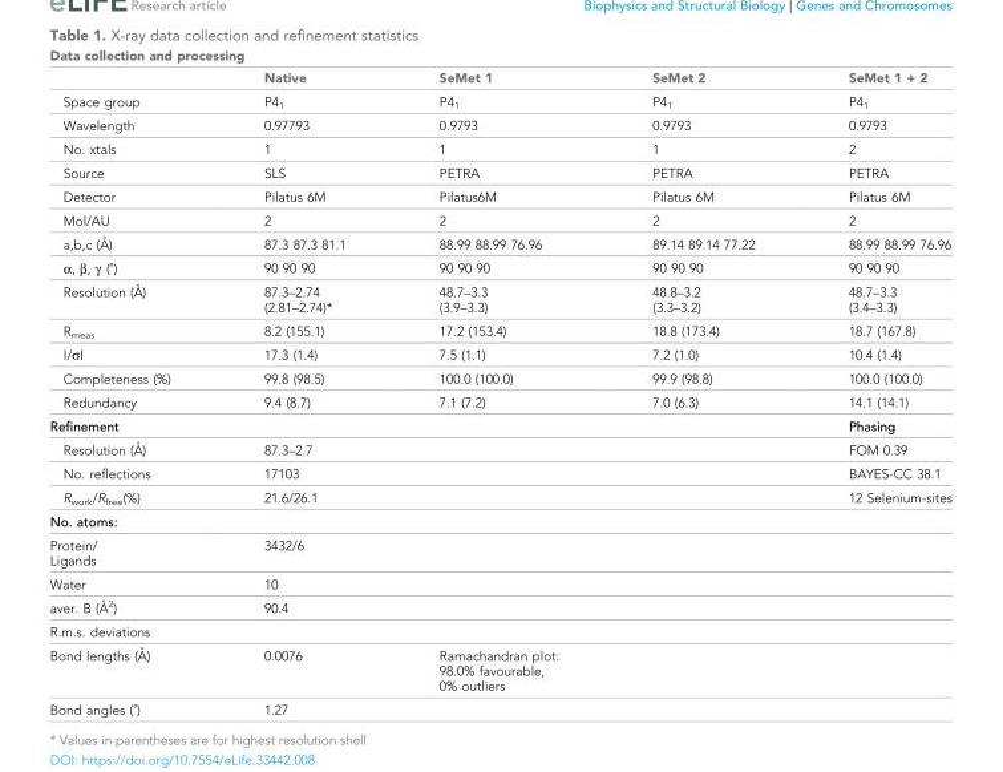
<table><thead><tr><td colspan="5">Data collection and processing</td></tr><tr><td></td><td>Native</td><td>SeMet 1</td><td>SeMet 2</td><td>SeMet 1 + 2</td></tr></thead><tbody><tr><td>Space group</td><td>P4<sub>1</sub></td><td>P4<sub>1</sub></td><td>P4<sub>1</sub></td><td>P4<sub>1</sub></td></tr><tr><td>Wavelength</td><td>0.97793</td><td>0.9793</td><td>0.9793</td><td>0.9793</td></tr><tr><td>No. xtals</td><td>1</td><td>1</td><td>1</td><td>2</td></tr><tr><td>Source</td><td>SLS</td><td>PETRA</td><td>PETRA</td><td>PETRA</td></tr><tr><td>Detector</td><td>Pilatus 6M</td><td>Pilatus6M</td><td>Pilatus 6M</td><td>Pilatus 6M</td></tr><tr><td>Mol/AU</td><td>2</td><td>2</td><td>2</td><td>2</td></tr><tr><td>a,b,c (A˚ )</td><td>87.3 87.3 81.1</td><td>88.99 88.99 76.96</td><td>89.14 89.14 77.22</td><td>88.99 88.99 76.96</td></tr><tr><td>α, β, γ (˚)</td><td>90 90 90</td><td>90 90 90</td><td>90 90 90</td><td>90 90 90</td></tr><tr><td>Resolution (A˚ )</td><td>87.3–2.74 (2.81–2.74)*</td><td>48.7–3.3 (3.9–3.3)</td><td>48.8–3.2 (3.3–3.2)</td><td>48.7–3.3 (3.4–3.3)</td></tr><tr><td>R<sub>meas</sub></td><td>8.2 (155.1)</td><td>17.2 (153.4)</td><td>18.8 (173.4)</td><td>18.7 (167.8)</td></tr><tr><td>I/σI</td><td>17.3 (1.4)</td><td>7.5 (1.1)</td><td>7.2 (1.0)</td><td>10.4 (1.4)</td></tr><tr><td>Completeness (%)</td><td>99.8 (98.5)</td><td>100.0 (100.0)</td><td>99.9 (98.8)</td><td>100.0 (100.0)</td></tr><tr><td>Redundancy</td><td>9.4 (8.7)</td><td>7.1 (7.2)</td><td>7.0 (6.3)</td><td>14.1 (14.1)</td></tr><tr><td colspan="4">Refinement</td><td>Phasing</td></tr><tr><td>Resolution (A˚ )</td><td>87.3–2.7</td><td></td><td></td><td>FOM 0.39</td></tr><tr><td>No. reflections</td><td>17103</td><td></td><td></td><td>BAYES-CC 38.1</td></tr><tr><td>R<sub>work</sub>/R<sub>free</sub>(%)</td><td>21.6/26.1</td><td></td><td></td><td>12 Selenium-sites</td></tr><tr><td colspan="5">No. atoms:</td></tr><tr><td>Protein/ Ligands</td><td>3432/6</td><td></td><td></td><td></td></tr><tr><td>Water</td><td>10</td><td></td><td></td><td></td></tr><tr><td>aver. B (A˚ 2)</td><td>90.4</td><td></td><td></td><td></td></tr><tr><td colspan="5">R.m.s. deviations</td></tr><tr><td>Bond lengths (A˚ )</td><td>0.0076</td><td>Ramachandran plot: 98.0% favourable, 0% outliers</td><td></td><td></td></tr><tr><td>Bond angles (˚)</td><td>1.27</td><td></td><td></td><td></td></tr></tbody></table>